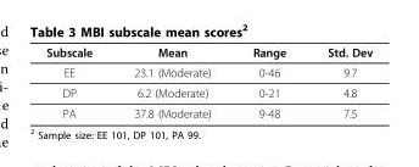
<table><thead><tr><td>Subscale</td><td>Mean</td><td>Range</td><td>Std. Dev</td></tr></thead><tbody><tr><td>EE</td><td>23.1 (Moderate)</td><td>0-46</td><td>9.7</td></tr><tr><td>DP</td><td>6.2 (Moderate)</td><td>0-21</td><td>4.8</td></tr><tr><td>PA</td><td>37.8 (Moderate)</td><td>9-48</td><td>7.5</td></tr></tbody></table>